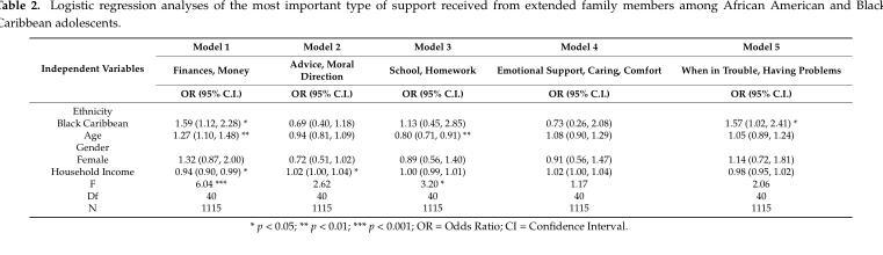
<table><thead><tr><td rowspan="3">Independent Variables</td><td rowspan="3">Model 1 Finances, Money OR (95% C.I.)</td><td rowspan="3">Model 2 Advice, Moral Direction OR (95% C.I.)</td><td rowspan="3">Model 3 School, Homework OR (95% C.I.)</td><td rowspan="3">Model 4 Emotional Support, Caring, Comfort OR (95% C.I.)</td><td rowspan="3">Model 5 When in Trouble, Having Problems OR (95% C.I.)</td></tr><tr></tr><tr></tr></thead><tbody><tr><td colspan="6">Ethnicity</td></tr><tr><td>Black Caribbean</td><td>1.59 (1.12, 2.28) *</td><td>0.69 (0.40, 1.18)</td><td>1.13 (0.45, 2.85)</td><td>0.73 (0.26, 2.08)</td><td>1.57 (1.02, 2.41) *</td></tr><tr><td>Age</td><td>1.27 (1.10, 1.48) **</td><td>0.94 (0.81, 1.09)</td><td>0.80 (0.71, 0.91) **</td><td>1.08 (0.90, 1.29)</td><td>1.05 (0.89, 1.24)</td></tr><tr><td colspan="6">Gender</td></tr><tr><td>Female</td><td>1.32 (0.87, 2.00)</td><td>0.72 (0.51, 1.02)</td><td>0.89 (0.56, 1.40)</td><td>0.91 (0.56, 1.47)</td><td>1.14 (0.72, 1.81)</td></tr><tr><td>Household Income</td><td>0.94 (0.90, 0.99) *</td><td>1.02 (1.00, 1.04) *</td><td>1.00 (0.99, 1.01)</td><td>1.02 (1.00, 1.04)</td><td>0.98 (0.95, 1.02)</td></tr><tr><td>F</td><td>6.04 ***</td><td>2.62</td><td>3.20 *</td><td>1.17</td><td>2.06</td></tr><tr><td>Df</td><td>40</td><td>40</td><td>40</td><td>40</td><td>40</td></tr><tr><td>N</td><td>1115</td><td>1115</td><td>1115</td><td>1115</td><td>1115</td></tr></tbody></table>